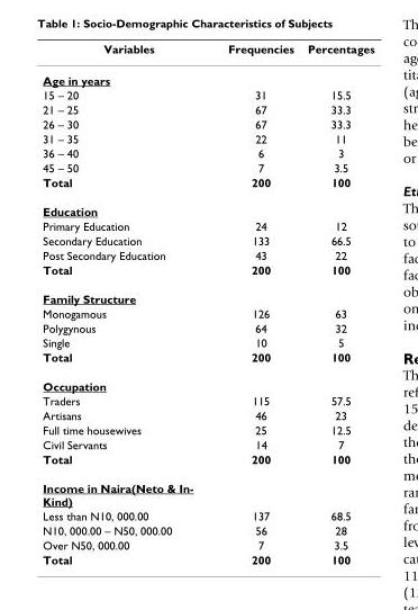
<table><thead><tr><td>Variables</td><td>Frequencies</td><td>Percentages</td></tr></thead><tbody><tr><td colspan="3">Age in years</td></tr><tr><td>15 – 20</td><td>31</td><td>15.5</td></tr><tr><td>21 – 25</td><td>67</td><td>33.3</td></tr><tr><td>26 – 30</td><td>67</td><td>33.3</td></tr><tr><td>31 – 35</td><td>22</td><td>11</td></tr><tr><td>36 – 40</td><td>6</td><td>3</td></tr><tr><td>45 – 50</td><td>7</td><td>3.5</td></tr><tr><td>Total</td><td>200</td><td>100</td></tr><tr><td colspan="3">Education</td></tr><tr><td>Primary Education</td><td>24</td><td>12</td></tr><tr><td>Secondary Education</td><td>133</td><td>66.5</td></tr><tr><td>Post Secondary Education</td><td>43</td><td>22</td></tr><tr><td>Total</td><td>200</td><td>100</td></tr><tr><td colspan="3">Family Structure</td></tr><tr><td>Monogamous</td><td>126</td><td>63</td></tr><tr><td>Polygynous</td><td>64</td><td>32</td></tr><tr><td>Single</td><td>10</td><td>5</td></tr><tr><td>Total</td><td>200</td><td>100</td></tr><tr><td colspan="3">Occupation</td></tr><tr><td>Traders</td><td>115</td><td>57.5</td></tr><tr><td>Artisans</td><td>46</td><td>23</td></tr><tr><td>Full time housewives</td><td>25</td><td>12.5</td></tr><tr><td>Civil Servants</td><td>14</td><td>7</td></tr><tr><td>Total</td><td>200</td><td>100</td></tr><tr><td colspan="3">Income in Naira(Neto &amp; In- Kind)</td></tr><tr><td>Less than N10, 000.00</td><td>137</td><td>68.5</td></tr><tr><td>N10, 000.00 – N50, 000.00</td><td>56</td><td>28</td></tr><tr><td>Over N50, 000.00</td><td>7</td><td>3.5</td></tr><tr><td>Total</td><td>200</td><td>100</td></tr></tbody></table>